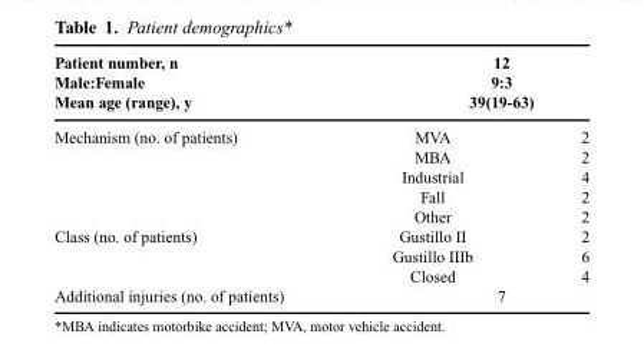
<table><thead><tr><td rowspan="2">Patient number, n Male:Female Mean age (range), y Mechanism (no. of patients)</td><td colspan="2">12 9:3 39(19-63)</td></tr><tr><td>MVA</td><td>2</td></tr></thead><tbody><tr><td></td><td>MBA</td><td>2</td></tr><tr><td></td><td>Industrial</td><td>4</td></tr><tr><td></td><td>Fall</td><td>2</td></tr><tr><td></td><td>Other</td><td>2</td></tr><tr><td rowspan="3">Class (no. of patients)</td><td>Gustillo II</td><td>2</td></tr><tr><td>Gustillo IIIb</td><td>6</td></tr><tr><td>Closed</td><td>4</td></tr><tr><td>Additional injuries (no. of patients)</td><td>7</td><td></td></tr></tbody></table>